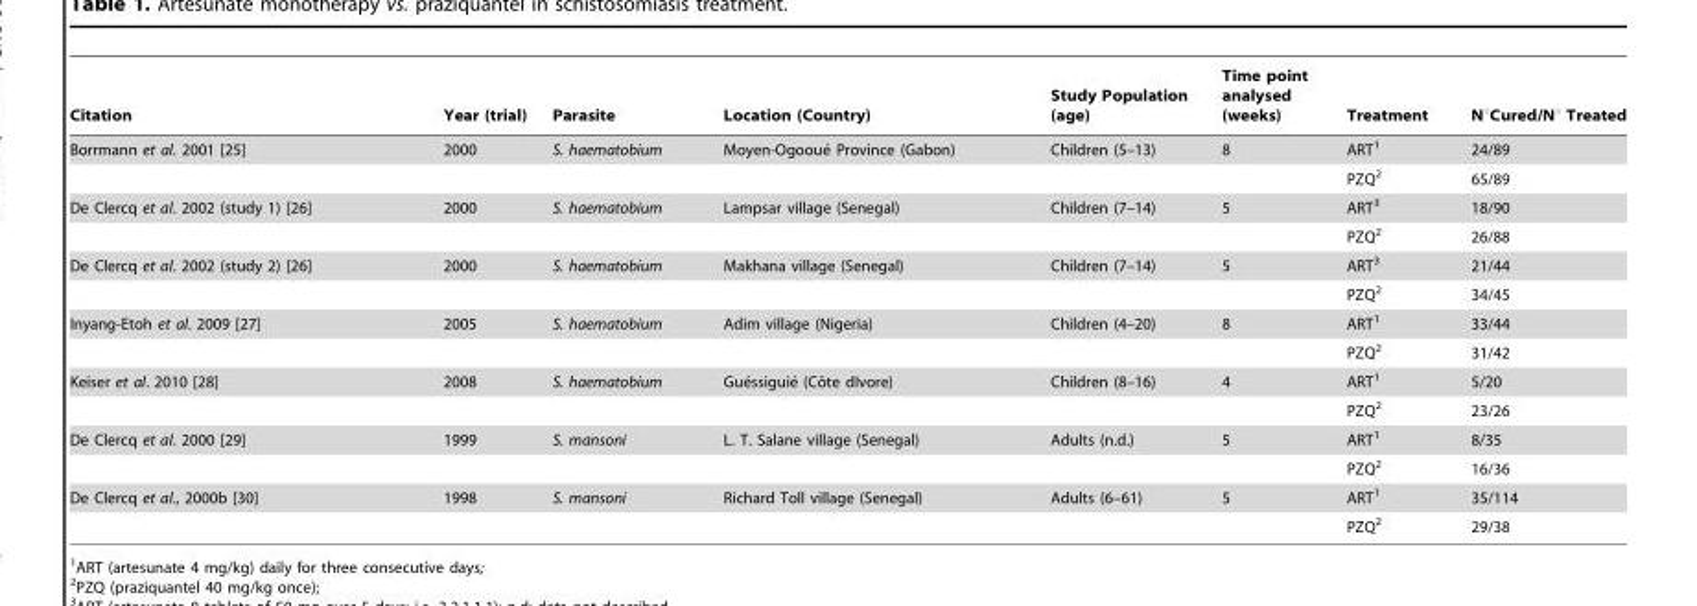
<table><thead><tr><td>Citation</td><td>Year (trial)</td><td>Parasite</td><td>Location (Country)</td><td>Study Population (age)</td><td>Time point analysed (weeks)</td><td>Treatment</td><td>N°Cured/N° Treated</td></tr></thead><tbody><tr><td rowspan="2">Borrmann et al. 2001 [25]</td><td>2000</td><td>S. haematobium</td><td>Moyen-Ogooue´ Province (Gabon)</td><td>Children (5–13)</td><td>8</td><td>ART<sup>1</sup></td><td>24/89</td></tr><tr><td></td><td></td><td></td><td></td><td></td><td>PZQ<sup>2</sup></td><td>65/89</td></tr><tr><td rowspan="2">De Clercq et al. 2002 (study 1) [26]</td><td>2000</td><td>S. haematobium</td><td>Lampsar village (Senegal)</td><td>Children (7–14)</td><td>5</td><td>ART<sup>3</sup></td><td>18/90</td></tr><tr><td></td><td></td><td></td><td></td><td></td><td>PZQ<sup>2</sup></td><td>26/88</td></tr><tr><td rowspan="2">De Clercq et al. 2002 (study 2) [26]</td><td>2000</td><td>S. haematobium</td><td>Makhana village (Senegal)</td><td>Children (7–14)</td><td>5</td><td>ART<sup>3</sup></td><td>21/44</td></tr><tr><td></td><td></td><td></td><td></td><td></td><td>PZQ<sup>2</sup></td><td>34/45</td></tr><tr><td rowspan="2">Inyang-Etoh et al. 2009 [27]</td><td>2005</td><td>S. haematobium</td><td>Adim village (Nigeria)</td><td>Children (4–20)</td><td>8</td><td>ART<sup>1</sup></td><td>33/44</td></tr><tr><td></td><td></td><td></td><td></td><td></td><td>PZQ<sup>2</sup></td><td>31/42</td></tr><tr><td rowspan="2">Keiser et al. 2010 [28]</td><td>2008</td><td>S. haematobium</td><td>Gue´ssiguie´ (Coˆte dIvore)</td><td>Children (8–16)</td><td>4</td><td>ART<sup>1</sup></td><td>5/20</td></tr><tr><td></td><td></td><td></td><td></td><td></td><td>PZQ<sup>2</sup></td><td>23/26</td></tr><tr><td rowspan="2">De Clercq et al. 2000 [29]</td><td>1999</td><td>S. mansoni</td><td>L. T. Salane village (Senegal)</td><td>Adults (n.d.)</td><td>5</td><td>ART<sup>1</sup></td><td>8/35</td></tr><tr><td></td><td></td><td></td><td></td><td></td><td>PZQ<sup>2</sup></td><td>16/36</td></tr><tr><td rowspan="2">De Clercq et al., 2000b [30]</td><td>1998</td><td>S. mansoni</td><td>Richard Toll village (Senegal)</td><td>Adults (6–61)</td><td>5</td><td>ART<sup>1</sup></td><td>35/114</td></tr><tr><td></td><td></td><td></td><td></td><td></td><td>PZQ<sup>2</sup></td><td>29/38</td></tr></tbody></table>